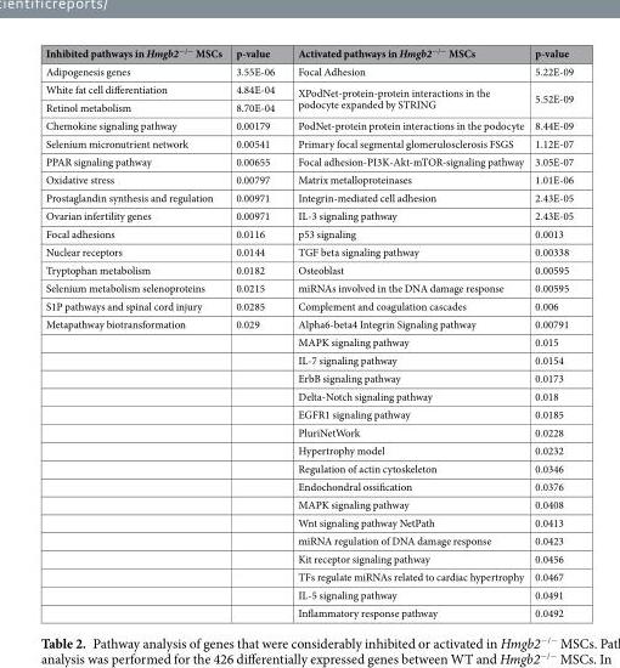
<table><thead><tr><td>Inhibited pathways in Hmgb2<sup>−/−</sup> MSCs</td><td>p-value</td><td>Activated pathways in Hmgb2<sup>−/−</sup> MSCs</td><td>p-value</td></tr></thead><tbody><tr><td>Adipogenesis genes</td><td>3.55E-06</td><td>Focal Adhesion</td><td>5.22E-09</td></tr><tr><td>White fat cell differentiation</td><td>4.84E-04</td><td rowspan="2">XPodNet-protein-protein interactions in the podocyte expanded by STRING</td><td rowspan="2">5.52E-09</td></tr><tr><td>Retinol metabolism</td><td>8.70E-04</td></tr><tr><td>Chemokine signaling pathway</td><td>0.00179</td><td>PodNet-protein protein interactions in the podocyte</td><td>8.44E-09</td></tr><tr><td>Selenium micronutrient network</td><td>0.00541</td><td>Primary focal segmental glomerulosclerosis FSGS</td><td>1.12E-07</td></tr><tr><td>PPAR signaling pathway</td><td>0.00655</td><td>Focal adhesion-PI3K-Akt-mTOR-signaling pathway</td><td>3.05E-07</td></tr><tr><td>Oxidative stress</td><td>0.00797</td><td>Matrix metalloproteinases</td><td>1.01E-06</td></tr><tr><td>Prostaglandin synthesis and regulation</td><td>0.00971</td><td>Integrin-mediated cell adhesion</td><td>2.43E-05</td></tr><tr><td>Ovarian infertility genes</td><td>0.00971</td><td>IL-3 signaling pathway</td><td>2.43E-05</td></tr><tr><td>Focal adhesions</td><td>0.0116</td><td>p53 signaling</td><td>0.0013</td></tr><tr><td>Nuclear receptors</td><td>0.0144</td><td>TGF beta signaling pathway</td><td>0.00338</td></tr><tr><td>Tryptophan metabolism</td><td>0.0182</td><td>Osteoblast</td><td>0.00595</td></tr><tr><td>Selenium metabolism selenoproteins</td><td>0.0215</td><td>miRNAs involved in the DNA damage response</td><td>0.00595</td></tr><tr><td>S1P pathways and spinal cord injury</td><td>0.0285</td><td>Complement and coagulation cascades</td><td>0.006</td></tr><tr><td rowspan="17">Metapathway biotransformation</td><td>0.029</td><td>Alpha6-beta4 Integrin Signaling pathway</td><td>0.00791</td></tr><tr><td></td><td>MAPK signaling pathway</td><td>0.015</td></tr><tr><td></td><td>IL-7 signaling pathway</td><td>0.0154</td></tr><tr><td></td><td>ErbB signaling pathway</td><td>0.0173</td></tr><tr><td></td><td>Delta-Notch signaling pathway</td><td>0.018</td></tr><tr><td></td><td>EGFR1 signaling pathway</td><td>0.0185</td></tr><tr><td></td><td>PluriNetWork</td><td>0.0228</td></tr><tr><td></td><td>Hypertrophy model</td><td>0.0232</td></tr><tr><td></td><td>Regulation of actin cytoskeleton</td><td>0.0346</td></tr><tr><td></td><td>Endochondral ossification</td><td>0.0376</td></tr><tr><td></td><td>MAPK signaling pathway</td><td>0.0408</td></tr><tr><td></td><td>Wnt signaling pathway NetPath</td><td>0.0413</td></tr><tr><td></td><td>miRNA regulation of DNA damage response</td><td>0.0423</td></tr><tr><td></td><td>Kit receptor signaling pathway</td><td>0.0456</td></tr><tr><td></td><td>TFs regulate miRNAs related to cardiac hypertrophy</td><td>0.0467</td></tr><tr><td></td><td>IL-5 signaling pathway</td><td>0.0491</td></tr><tr><td></td><td>Inflammatory response pathway</td><td>0.0492</td></tr></tbody></table>